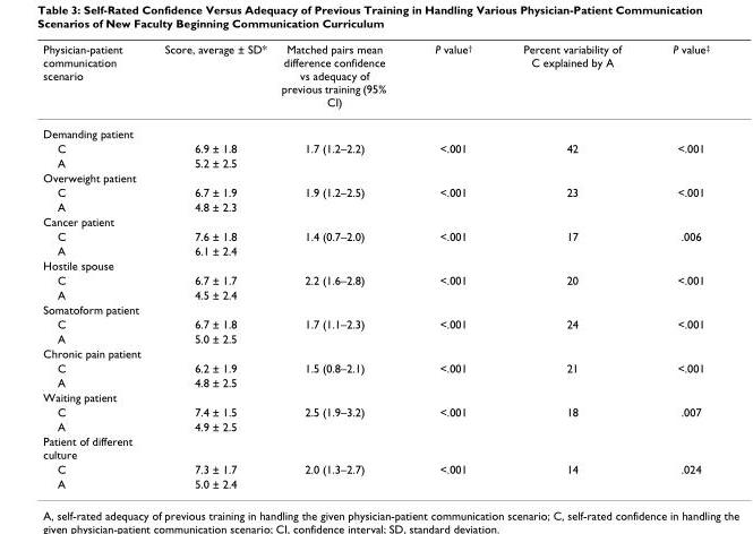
<table><thead><tr><td>Physician-patient communication scenario</td><td>Score, average ± SD*</td><td>Matched pairs mean difference confidence vs adequacy of previous training (95% CI)</td><td>P value†</td><td>Percent variability of C explained by A</td><td>P value‡</td></tr></thead><tbody><tr><td colspan="6">Demanding patient</td></tr><tr><td>C</td><td>6.9 ± 1.8</td><td>1.7 (1.2–2.2)</td><td>&lt;.001</td><td>42</td><td>&lt;.001</td></tr><tr><td>A</td><td>5.2 ± 2.5</td><td></td><td></td><td></td><td></td></tr><tr><td colspan="6">Overweight patient</td></tr><tr><td>C</td><td>6.7 ± 1.9</td><td>1.9 (1.2–2.5)</td><td>&lt;.001</td><td>23</td><td>&lt;.001</td></tr><tr><td>A</td><td>4.8 ± 2.3</td><td></td><td></td><td></td><td></td></tr><tr><td colspan="6">Cancer patient</td></tr><tr><td>C</td><td>7.6 ± 1.8</td><td>1.4 (0.7–2.0)</td><td>&lt;.001</td><td>17</td><td>.006</td></tr><tr><td>A</td><td>6.1 ± 2.4</td><td></td><td></td><td></td><td></td></tr><tr><td colspan="6">Hostile spouse</td></tr><tr><td>C</td><td>6.7 ± 1.7</td><td>2.2 (1.6–2.8)</td><td>&lt;.001</td><td>20</td><td>&lt;.001</td></tr><tr><td>A</td><td>4.5 ± 2.4</td><td></td><td></td><td></td><td></td></tr><tr><td colspan="6">Somatoform patient</td></tr><tr><td>C</td><td>6.7 ± 1.8</td><td>1.7 (1.1–2.3)</td><td>&lt;.001</td><td>24</td><td>&lt;.001</td></tr><tr><td>A</td><td>5.0 ± 2.5</td><td></td><td></td><td></td><td></td></tr><tr><td colspan="6">Chronic pain patient</td></tr><tr><td>C</td><td>6.2 ± 1.9</td><td>1.5 (0.8–2.1)</td><td>&lt;.001</td><td>21</td><td>&lt;.001</td></tr><tr><td>A</td><td>4.8 ± 2.5</td><td></td><td></td><td></td><td></td></tr><tr><td colspan="6">Waiting patient</td></tr><tr><td>C</td><td>7.4 ± 1.5</td><td>2.5 (1.9–3.2)</td><td>&lt;.001</td><td>18</td><td>.007</td></tr><tr><td>A</td><td>4.9 ± 2.5</td><td></td><td></td><td></td><td></td></tr><tr><td colspan="6">Patient of different culture</td></tr><tr><td>C</td><td>7.3 ± 1.7</td><td>2.0 (1.3–2.7)</td><td>&lt;.001</td><td>14</td><td>.024</td></tr><tr><td>A</td><td>5.0 ± 2.4</td><td></td><td></td><td></td><td></td></tr></tbody></table>